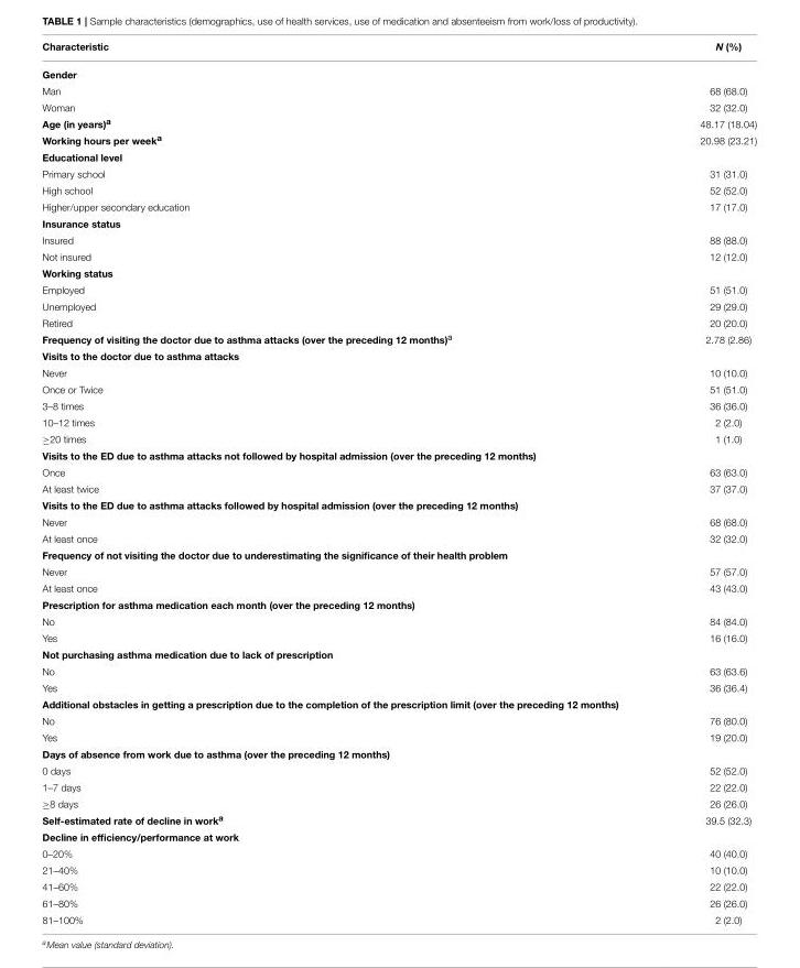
<table><thead><tr><td>Characteristic</td><td>N (%)</td></tr></thead><tbody><tr><td colspan="2">Gender</td></tr><tr><td>Man</td><td>68 (68.0)</td></tr><tr><td>Woman</td><td>32 (32.0)</td></tr><tr><td>Age (in years)<sup>a</sup></td><td>48.17 (18.04)</td></tr><tr><td>Working hours per week<sup>a</sup></td><td>20.98 (23.21)</td></tr><tr><td colspan="2">Educational level</td></tr><tr><td>Primary school</td><td>31 (31.0)</td></tr><tr><td>High school</td><td>52 (52.0)</td></tr><tr><td>Higher/upper secondary education</td><td>17 (17.0)</td></tr><tr><td colspan="2">Insurance status</td></tr><tr><td>Insured</td><td>88 (88.0)</td></tr><tr><td>Not insured</td><td>12 (12.0)</td></tr><tr><td colspan="2">Working status</td></tr><tr><td>Employed</td><td>51 (51.0)</td></tr><tr><td>Unemployed</td><td>29 (29.0)</td></tr><tr><td>Retired</td><td>20 (20.0)</td></tr><tr><td>Frequency of visiting the doctor due to asthma attacks (over the preceding 12 months)<sup>a</sup></td><td>2.78 (2.86)</td></tr><tr><td colspan="2">Visits to the doctor due to asthma attacks</td></tr><tr><td>Never</td><td>10 (10.0)</td></tr><tr><td>Once or Twice</td><td>51 (51.0)</td></tr><tr><td>3–8 times</td><td>36 (36.0)</td></tr><tr><td>10–12 times</td><td>2 (2.0)</td></tr><tr><td>≥20 times</td><td>1 (1.0)</td></tr><tr><td colspan="2">Visits to the ED due to asthma attacks not followed by hospital admission (over the preceding 12 months)</td></tr><tr><td>Once</td><td>63 (63.0)</td></tr><tr><td>At least twice</td><td>37 (37.0)</td></tr><tr><td colspan="2">Visits to the ED due to asthma attacks followed by hospital admission (over the preceding 12 months)</td></tr><tr><td>Never</td><td>68 (68.0)</td></tr><tr><td>At least once</td><td>32 (32.0)</td></tr><tr><td colspan="2">Frequency of not visiting the doctor due to underestimating the significance of their health problem</td></tr><tr><td>Never</td><td>57 (57.0)</td></tr><tr><td>At least once</td><td>43 (43.0)</td></tr><tr><td colspan="2">Prescription for asthma medication each month (over the preceding 12 months)</td></tr><tr><td>No</td><td>84 (84.0)</td></tr><tr><td>Yes</td><td>16 (16.0)</td></tr><tr><td colspan="2">Not purchasing asthma medication due to lack of prescription</td></tr><tr><td>No</td><td>63 (63.6)</td></tr><tr><td>Yes</td><td>36 (36.4)</td></tr><tr><td colspan="2">Additional obstacles in getting a prescription due to the completion of the prescription limit (over the preceding 12 months)</td></tr><tr><td>No</td><td>76 (80.0)</td></tr><tr><td>Yes</td><td>19 (20.0)</td></tr><tr><td colspan="2">Days of absence from work due to asthma (over the preceding 12 months)</td></tr><tr><td>0 days</td><td>52 (52.0)</td></tr><tr><td>1–7 days</td><td>22 (22.0)</td></tr><tr><td>≥8 days</td><td>26 (26.0)</td></tr><tr><td>Self-estimated rate of decline in work<sup>a</sup></td><td>39.5 (32.3)</td></tr><tr><td colspan="2">Decline in efficiency/performance at work</td></tr><tr><td>0–20%</td><td>40 (40.0)</td></tr><tr><td>21–40%</td><td>10 (10.0)</td></tr><tr><td>41–60%</td><td>22 (22.0)</td></tr><tr><td>61–80%</td><td>26 (26.0)</td></tr><tr><td>81–100%</td><td>2 (2.0)</td></tr></tbody></table>